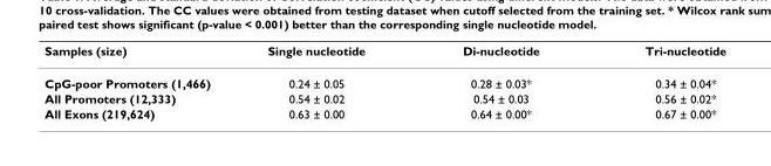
<table><thead><tr><td>Samples (size)</td><td>Single nucleotide</td><td>Di-nucleotide</td><td>Tri-nucleotide</td></tr></thead><tbody><tr><td>CpG-poor Promoters (1,466)</td><td>0.24 ± 0.05</td><td>0.28 ± 0.03*</td><td>0.34 ± 0.04*</td></tr><tr><td>All Promoters (12,333)</td><td>0.54 ± 0.02</td><td>0.54 ± 0.03</td><td>0.56 ± 0.02*</td></tr><tr><td>All Exons (219,624)</td><td>0.63 ± 0.00</td><td>0.64 ± 0.00*</td><td>0.67 ± 0.00*</td></tr></tbody></table>